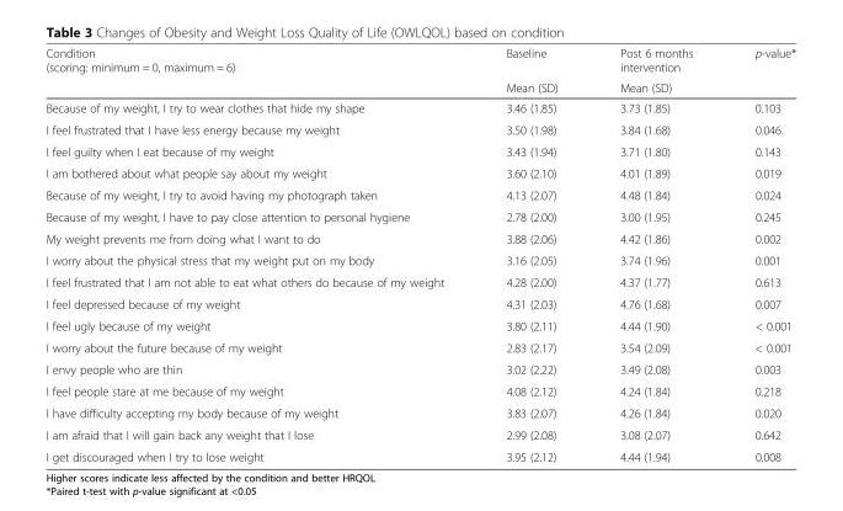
<table><thead><tr><td rowspan="2">Condition (scoring: minimum = 0, maximum = 6)</td><td rowspan="2">Baseline Mean (SD)</td><td rowspan="2">Post 6 months intervention Mean (SD)</td><td rowspan="2">p-value*</td></tr><tr></tr></thead><tbody><tr><td>Because of my weight, I try to wear clothes that hide my shape</td><td>3.46 (1.85)</td><td>3.73 (1.85)</td><td>0.103</td></tr><tr><td>I feel frustrated that I have less energy because my weight</td><td>3.50 (1.98)</td><td>3.84 (1.68)</td><td>0.046</td></tr><tr><td>I feel guilty when I eat because of my weight</td><td>3.43 (1.94)</td><td>3.71 (1.80)</td><td>0.143</td></tr><tr><td>I am bothered about what people say about my weight</td><td>3.60 (2.10)</td><td>4.01 (1.89)</td><td>0.019</td></tr><tr><td>Because of my weight, I try to avoid having my photograph taken</td><td>4.13 (2.07)</td><td>4.48 (1.84)</td><td>0.024</td></tr><tr><td>Because of my weight, I have to pay close attention to personal hygiene</td><td>2.78 (2.00)</td><td>3.00 (1.95)</td><td>0.245</td></tr><tr><td>My weight prevents me from doing what I want to do</td><td>3.88 (2.06)</td><td>4.42 (1.86)</td><td>0.002</td></tr><tr><td>I worry about the physical stress that my weight put on my body</td><td>3.16 (2.05)</td><td>3.74 (1.96)</td><td>0.001</td></tr><tr><td>I feel frustrated that I am not able to eat what others do because of my weight</td><td>4.28 (2.00)</td><td>4.37 (1.77)</td><td>0.613</td></tr><tr><td>I feel depressed because of my weight</td><td>4.31 (2.03)</td><td>4.76 (1.68)</td><td>0.007</td></tr><tr><td>I feel ugly because of my weight</td><td>3.80 (2.11)</td><td>4.44 (1.90)</td><td>&lt; 0.001</td></tr><tr><td>I worry about the future because of my weight</td><td>2.83 (2.17)</td><td>3.54 (2.09)</td><td>&lt; 0.001</td></tr><tr><td>I envy people who are thin</td><td>3.02 (2.22)</td><td>3.49 (2.08)</td><td>0.003</td></tr><tr><td>I feel people stare at me because of my weight</td><td>4.08 (2.12)</td><td>4.24 (1.84)</td><td>0.218</td></tr><tr><td>I have difficulty accepting my body because of my weight</td><td>3.83 (2.07)</td><td>4.26 (1.84)</td><td>0.020</td></tr><tr><td>I am afraid that I will gain back any weight that I lose</td><td>2.99 (2.08)</td><td>3.08 (2.07)</td><td>0.642</td></tr><tr><td>I get discouraged when I try to lose weight</td><td>3.95 (2.12)</td><td>4.44 (1.94)</td><td>0.008</td></tr></tbody></table>